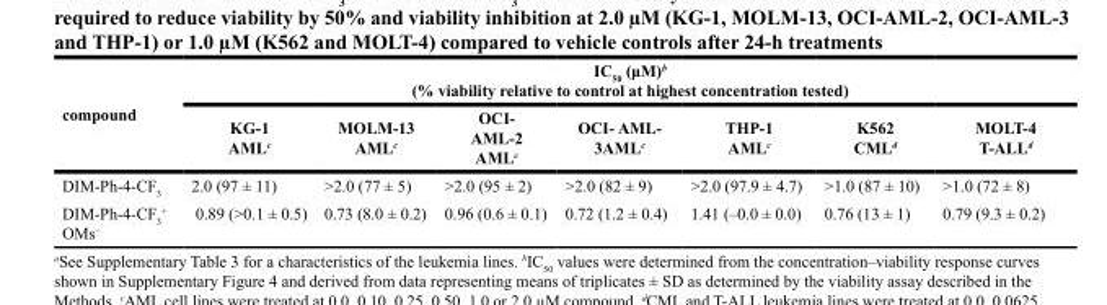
<table><thead><tr><td rowspan="2">compound</td><td colspan="7">IC<sub>50</sub> (μM)<sup>b</sup> (% viability relative to control at highest concentration tested)</td></tr><tr><td>KG-1 AML<sup>c</sup></td><td>MOLM-13 AML<sup>c</sup></td><td>OCI- AML-2 AML<sup>c</sup></td><td>OCI- AML- 3AML<sup>c</sup></td><td>THP-1 AML<sup>c</sup></td><td>K562 CML<sup>d</sup></td><td>MOLT-4 T-ALL<sup>d</sup></td></tr></thead><tbody><tr><td>DIM-Ph-4-CF<sub>3</sub></td><td>2.0 (97 ± 11)</td><td>&gt;2.0 (77 ± 5)</td><td>&gt;2.0 (95 ± 2)</td><td>&gt;2.0 (82 ± 9)</td><td>&gt;2.0 (97.9 ± 4.7)</td><td>&gt;1.0 (87 ± 10)</td><td>&gt;1.0 (72 ± 8)</td></tr><tr><td>DIM-Ph-4-CF<sub>3</sub> <sup>+</sup> OMs<sup>–</sup></td><td>0.89 (&gt;0.1 ± 0.5)</td><td>0.73 (8.0 ± 0.2)</td><td>0.96 (0.6 ± 0.1)</td><td>0.72 (1.2 ± 0.4)</td><td>1.41 (–0.0 ± 0.0)</td><td>0.76 (13 ± 1)</td><td>0.79 (9.3 ± 0.2)</td></tr></tbody></table>